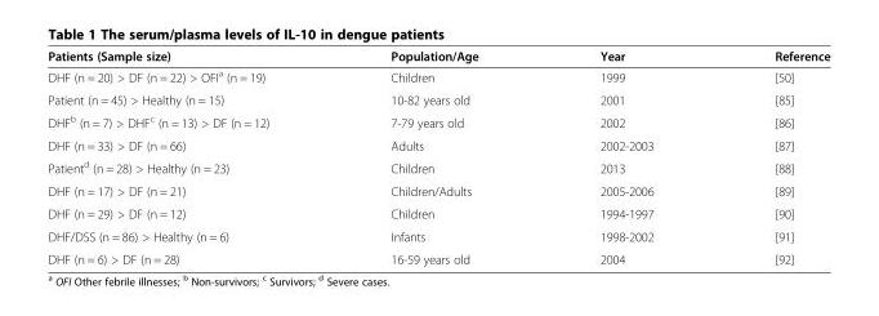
<table><thead><tr><td>Patients (Sample size)</td><td>Population/Age</td><td>Year</td><td>Reference</td></tr></thead><tbody><tr><td>DHF (n = 20) &gt; DF (n = 22) &gt; OFI<sup>a</sup> (n = 19)</td><td>Children</td><td>1999</td><td>[50]</td></tr><tr><td>Patient (n = 45) &gt; Healthy (n = 15)</td><td>10-82 years old</td><td>2001</td><td>[85]</td></tr><tr><td>DHF<sup>b</sup> (n = 7) &gt; DHF<sup>c</sup> (n = 13) &gt; DF (n = 12)</td><td>7-79 years old</td><td>2002</td><td>[86]</td></tr><tr><td>DHF (n = 33) &gt; DF (n = 66)</td><td>Adults</td><td>2002-2003</td><td>[87]</td></tr><tr><td>Patient<sup>d</sup> (n = 28) &gt; Healthy (n = 23)</td><td>Children</td><td>2013</td><td>[88]</td></tr><tr><td>DHF (n = 17) &gt; DF (n = 21)</td><td>Children/Adults</td><td>2005-2006</td><td>[89]</td></tr><tr><td>DHF (n = 29) &gt; DF (n = 12)</td><td>Children</td><td>1994-1997</td><td>[90]</td></tr><tr><td>DHF/DSS (n = 86) &gt; Healthy (n = 6)</td><td>Infants</td><td>1998-2002</td><td>[91]</td></tr><tr><td>DHF (n = 6) &gt; DF (n = 28)</td><td>16-59 years old</td><td>2004</td><td>[92]</td></tr></tbody></table>